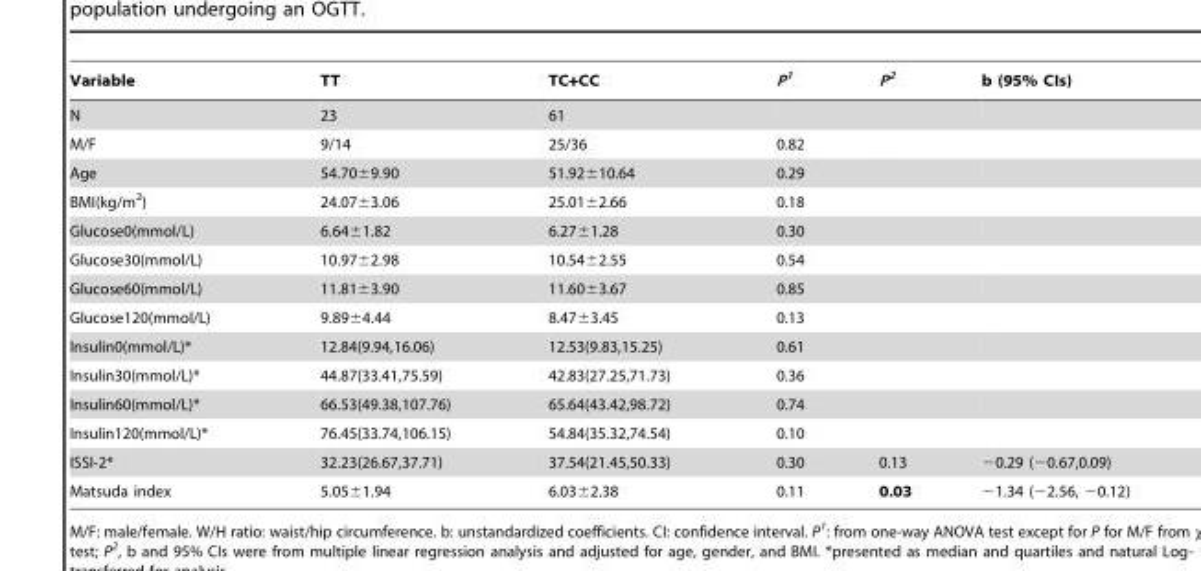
<table><thead><tr><td>Variable</td><td>TT</td><td>TC+CC</td><td>P<sup>1</sup></td><td>P<sup>2</sup></td><td>b (95% CIs)</td></tr></thead><tbody><tr><td>N</td><td>23</td><td>61</td><td></td><td></td><td></td></tr><tr><td>M/F</td><td>9/14</td><td>25/36</td><td>0.82</td><td></td><td></td></tr><tr><td>Age</td><td>54.70±9.90</td><td>51.92±10.64</td><td>0.29</td><td></td><td></td></tr><tr><td>BMI(kg/m<sup>2</sup>)</td><td>24.07±3.06</td><td>25.01±2.66</td><td>0.18</td><td></td><td></td></tr><tr><td>Glucose0(mmol/L)</td><td>6.64±1.82</td><td>6.27±1.28</td><td>0.30</td><td></td><td></td></tr><tr><td>Glucose30(mmol/L)</td><td>10.97±2.98</td><td>10.54±2.55</td><td>0.54</td><td></td><td></td></tr><tr><td>Glucose60(mmol/L)</td><td>11.81±3.90</td><td>11.60±3.67</td><td>0.85</td><td></td><td></td></tr><tr><td>Glucose120(mmol/L)</td><td>9.89±4.44</td><td>8.47±3.45</td><td>0.13</td><td></td><td></td></tr><tr><td>Insulin0(mmol/L)*</td><td>12.84(9.94,16.06)</td><td>12.53(9.83,15.25)</td><td>0.61</td><td></td><td></td></tr><tr><td>Insulin30(mmol/L)*</td><td>44.87(33.41,75.59)</td><td>42.83(27.25,71.73)</td><td>0.36</td><td></td><td></td></tr><tr><td>Insulin60(mmol/L)*</td><td>66.53(49.38,107.76)</td><td>65.64(43.42,98.72)</td><td>0.74</td><td></td><td></td></tr><tr><td>Insulin120(mmol/L)*</td><td>76.45(33.74,106.15)</td><td>54.84(35.32,74.54)</td><td>0.10</td><td></td><td></td></tr><tr><td>ISSI-2*</td><td>32.23(26.67,37.71)</td><td>37.54(21.45,50.33)</td><td>0.30</td><td>0.13</td><td>−0.29 (−0.67,0.09)</td></tr><tr><td>Matsuda index</td><td>5.05±1.94</td><td>6.03±2.38</td><td>0.11</td><td>0.03</td><td>−1.34 (−2.56, −0.12)</td></tr></tbody></table>